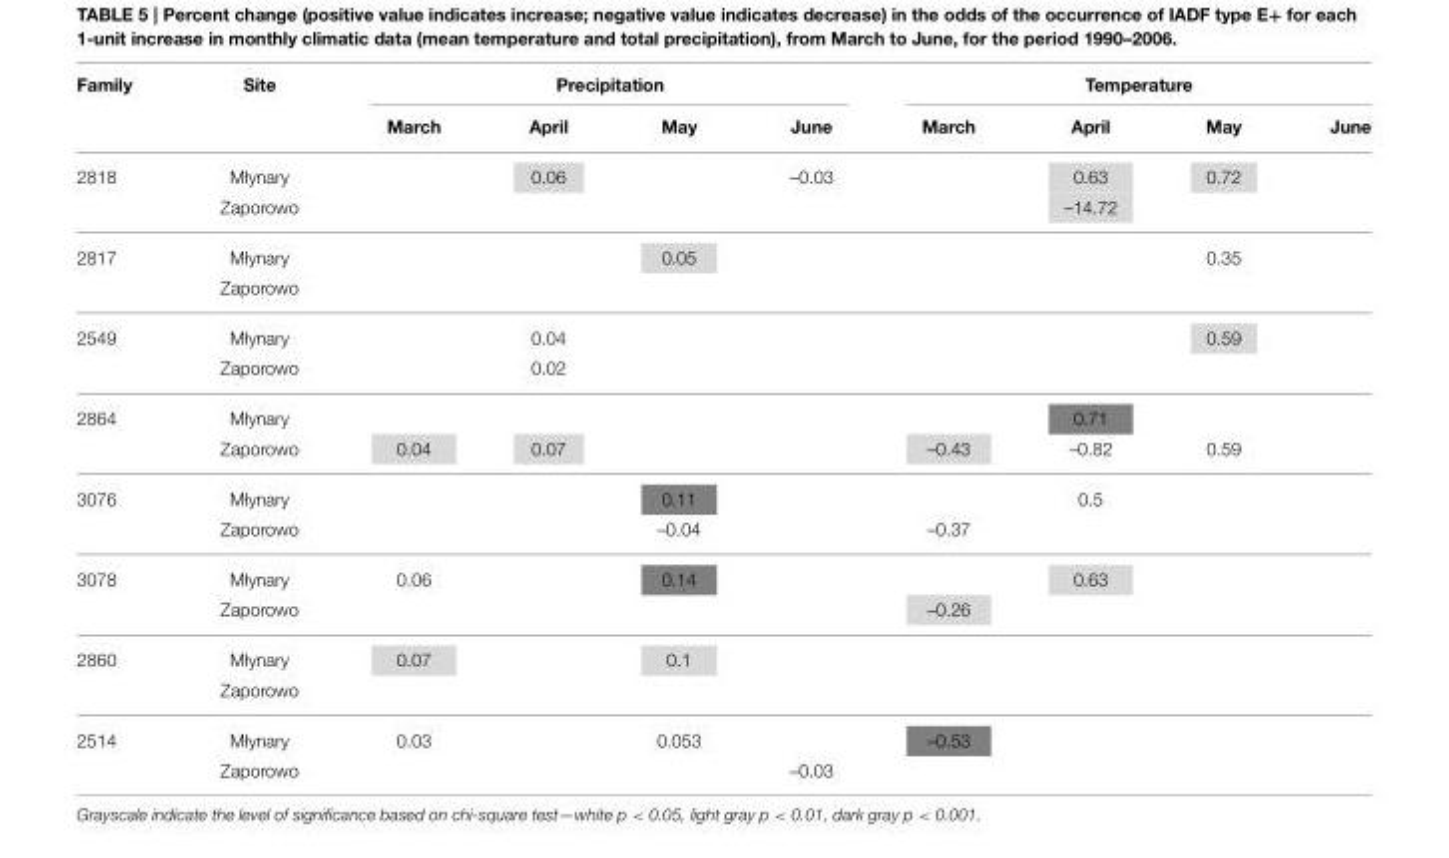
<table><thead><tr><td rowspan="2">Family</td><td rowspan="2">Site</td><td colspan="4">Precipitation</td><td colspan="4">Temperature</td></tr><tr><td>March</td><td>April</td><td>May</td><td>June</td><td>March</td><td>April</td><td>May</td><td>June</td></tr></thead><tbody><tr><td rowspan="2">2818</td><td>Młynary</td><td></td><td>0.06</td><td></td><td>–0.03</td><td></td><td>0.63</td><td>0.72</td><td></td></tr><tr><td>Zaporowo</td><td></td><td></td><td></td><td></td><td></td><td>–14.72</td><td></td><td></td></tr><tr><td rowspan="2">2817</td><td>Młynary</td><td></td><td></td><td>0.05</td><td></td><td></td><td></td><td>0.35</td><td></td></tr><tr><td>Zaporowo</td><td></td><td></td><td></td><td></td><td></td><td></td><td></td><td></td></tr><tr><td rowspan="2">2549</td><td>Młynary</td><td></td><td>0.04</td><td></td><td></td><td></td><td></td><td>0.59</td><td></td></tr><tr><td>Zaporowo</td><td></td><td>0.02</td><td></td><td></td><td></td><td></td><td></td><td></td></tr><tr><td rowspan="2">2864</td><td>Młynary</td><td></td><td></td><td></td><td></td><td></td><td>0.71</td><td></td><td></td></tr><tr><td>Zaporowo</td><td>0.04</td><td>0.07</td><td></td><td></td><td>–0.43</td><td>–0.82</td><td>0.59</td><td></td></tr><tr><td rowspan="2">3076</td><td>Młynary</td><td></td><td></td><td>0.11</td><td></td><td></td><td>0.5</td><td></td><td></td></tr><tr><td>Zaporowo</td><td></td><td></td><td>–0.04</td><td></td><td>–0.37</td><td></td><td></td><td></td></tr><tr><td rowspan="2">3078</td><td>Młynary</td><td>0.06</td><td></td><td>0.14</td><td></td><td></td><td>0.63</td><td></td><td></td></tr><tr><td>Zaporowo</td><td></td><td></td><td></td><td></td><td>–0.26</td><td></td><td></td><td></td></tr><tr><td rowspan="2">2860</td><td>Młynary</td><td>0.07</td><td></td><td>0.1</td><td></td><td></td><td></td><td></td><td></td></tr><tr><td>Zaporowo</td><td></td><td></td><td></td><td></td><td></td><td></td><td></td><td></td></tr><tr><td rowspan="2">2514</td><td>Młynary</td><td>0.03</td><td></td><td>0.053</td><td></td><td>–0.53</td><td></td><td></td><td></td></tr><tr><td>Zaporowo</td><td></td><td></td><td></td><td>–0.03</td><td></td><td></td><td></td><td></td></tr></tbody></table>